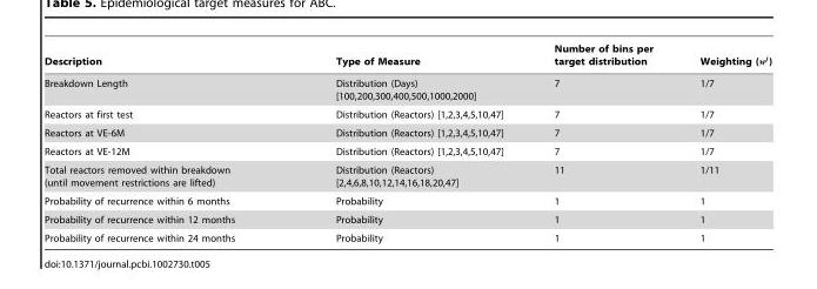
<table><thead><tr><td>Description</td><td>Type of Measure</td><td>Number of bins per target distribution</td><td>Weighting (wj)</td></tr></thead><tbody><tr><td>Breakdown Length</td><td>Distribution (Days) [100,200,300,400,500,1000,2000]</td><td>7</td><td>1/7</td></tr><tr><td>Reactors at first test</td><td>Distribution (Reactors) [1,2,3,4,5,10,47]</td><td>7</td><td>1/7</td></tr><tr><td>Reactors at VE-6M</td><td>Distribution (Reactors) [1,2,3,4,5,10,47]</td><td>7</td><td>1/7</td></tr><tr><td>Reactors at VE-12M</td><td>Distribution (Reactors) [1,2,3,4,5,10,47]</td><td>7</td><td>1/7</td></tr><tr><td>Total reactors removed within breakdown (until movement restrictions are lifted)</td><td>Distribution (Reactors) [2,4,6,8,10,12,14,16,18,20,47]</td><td>11</td><td>1/11</td></tr><tr><td>Probability of recurrence within 6 months</td><td>Probability</td><td>1</td><td>1</td></tr><tr><td>Probability of recurrence within 12 months</td><td>Probability</td><td>1</td><td>1</td></tr><tr><td>Probability of recurrence within 24 months</td><td>Probability</td><td>1</td><td>1</td></tr></tbody></table>